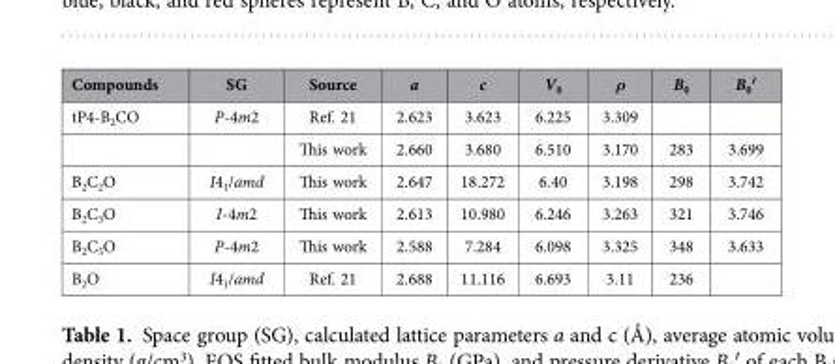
<table><thead><tr><td>Compounds</td><td>SG</td><td>Source</td><td>a</td><td>c</td><td>V<sub>0</sub></td><td>ρ</td><td>B<sub>0</sub></td><td>B<sub>0</sub>′</td></tr></thead><tbody><tr><td rowspan="2">tP4-B<sub>2</sub>CO</td><td>P-4m2</td><td>Ref. 21</td><td>2.623</td><td>3.623</td><td>6.225</td><td>3.309</td><td></td><td></td></tr><tr><td></td><td>This work</td><td>2.660</td><td>3.680</td><td>6.510</td><td>3.170</td><td>283</td><td>3.699</td></tr><tr><td>B<sub>2</sub>C<sub>2</sub>O</td><td>I4<sub>1</sub>/amd</td><td>This work</td><td>2.647</td><td>18.272</td><td>6.40</td><td>3.198</td><td>298</td><td>3.742</td></tr><tr><td>B<sub>2</sub>C<sub>3</sub>O</td><td>I-4m2</td><td>This work</td><td>2.613</td><td>10.980</td><td>6.246</td><td>3.263</td><td>321</td><td>3.746</td></tr><tr><td>B<sub>2</sub>C<sub>5</sub>O</td><td>P-4m2</td><td>This work</td><td>2.588</td><td>7.284</td><td>6.098</td><td>3.325</td><td>348</td><td>3.633</td></tr><tr><td>B<sub>2</sub>O</td><td>I4<sub>1</sub>/amd</td><td>Ref. 21</td><td>2.688</td><td>11.116</td><td>6.693</td><td>3.11</td><td>236</td><td></td></tr></tbody></table>